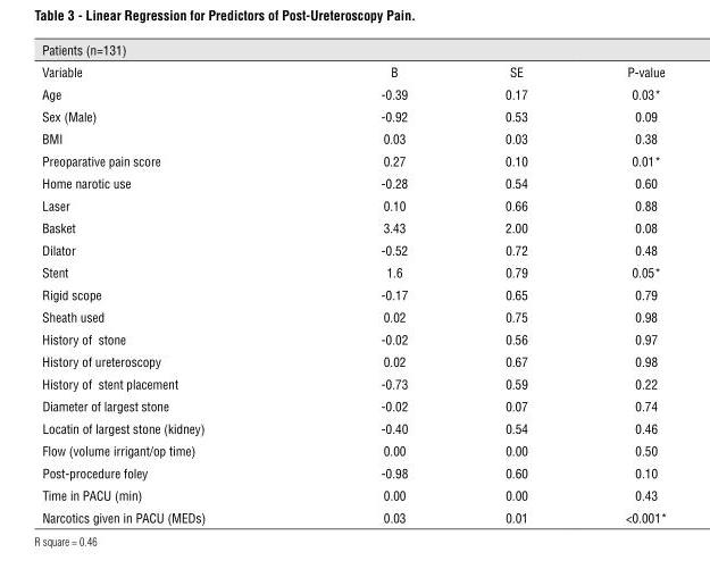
<table><thead><tr><td colspan="4">Patients (n=131)</td></tr><tr><td>Variable</td><td>B</td><td>SE</td><td>P-value</td></tr></thead><tbody><tr><td>Age</td><td>-0.39</td><td>0.17</td><td>0.03*</td></tr><tr><td>Sex (Male)</td><td>-0.92</td><td>0.53</td><td>0.09</td></tr><tr><td>BMI</td><td>0.03</td><td>0.03</td><td>0.38</td></tr><tr><td>Preoparative pain score</td><td>0.27</td><td>0.10</td><td>0.01*</td></tr><tr><td>Home narotic use</td><td>-0.28</td><td>0.54</td><td>0.60</td></tr><tr><td>Laser</td><td>0.10</td><td>0.66</td><td>0.88</td></tr><tr><td>Basket</td><td>3.43</td><td>2.00</td><td>0.08</td></tr><tr><td>Dilator</td><td>-0.52</td><td>0.72</td><td>0.48</td></tr><tr><td>Stent</td><td>1.6</td><td>0.79</td><td>0.05*</td></tr><tr><td>Rigid scope</td><td>-0.17</td><td>0.65</td><td>0.79</td></tr><tr><td>Sheath used</td><td>0.02</td><td>0.75</td><td>0.98</td></tr><tr><td>History of stone</td><td>-0.02</td><td>0.56</td><td>0.97</td></tr><tr><td>History of ureteroscopy</td><td>0.02</td><td>0.67</td><td>0.98</td></tr><tr><td>History of stent placement</td><td>-0.73</td><td>0.59</td><td>0.22</td></tr><tr><td>Diameter of largest stone</td><td>-0.02</td><td>0.07</td><td>0.74</td></tr><tr><td>Locatin of largest stone (kidney)</td><td>-0.40</td><td>0.54</td><td>0.46</td></tr><tr><td>Flow (volume irrigant/op time)</td><td>0.00</td><td>0.00</td><td>0.50</td></tr><tr><td>Post-procedure foley</td><td>-0.98</td><td>0.60</td><td>0.10</td></tr><tr><td>Time in PACU (min)</td><td>0.00</td><td>0.00</td><td>0.43</td></tr><tr><td>Narcotics given in PACU (MEDs)</td><td>0.03</td><td>0.01</td><td>&lt;0.001*</td></tr></tbody></table>